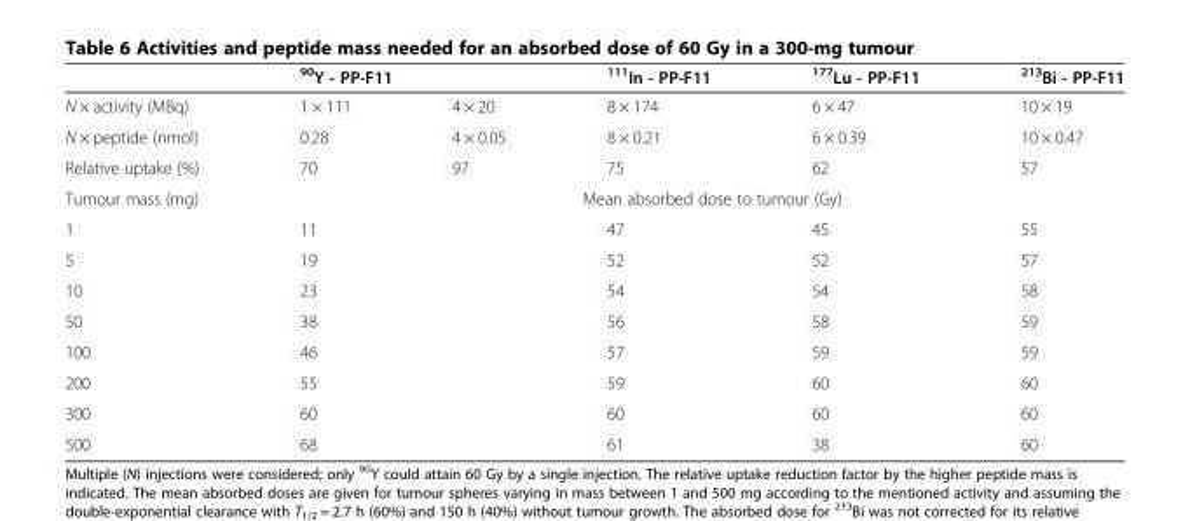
<table><thead><tr><td rowspan="2">N × activity (MBq)</td><td colspan="2"><sup>90</sup>Y - PP-F11</td><td rowspan="2"><sup>111</sup>In - PP-F11 8 × 174</td><td rowspan="2"><sup>177</sup>Lu - PP-F11 6 × 47</td><td rowspan="2"><sup>213</sup>Bi - PP-F11 10 × 19</td></tr><tr><td>1 × 111</td><td>4 × 20</td></tr></thead><tbody><tr><td>N × peptide (nmol)</td><td>0.28</td><td>4 × 0.05</td><td>8 × 0.21</td><td>6 × 0.39</td><td>10 × 0.47</td></tr><tr><td>Relative uptake (%)</td><td>70</td><td>97</td><td>75</td><td>62</td><td>57</td></tr><tr><td>Tumour mass (mg)</td><td colspan="5">Mean absorbed dose to tumour (Gy)</td></tr><tr><td>1</td><td colspan="2">11</td><td>47</td><td>45</td><td>55</td></tr><tr><td>5</td><td colspan="2">19</td><td>52</td><td>52</td><td>57</td></tr><tr><td>10</td><td colspan="2">23</td><td>54</td><td>54</td><td>58</td></tr><tr><td>50</td><td colspan="2">38</td><td>56</td><td>58</td><td>59</td></tr><tr><td>100</td><td colspan="2">46</td><td>57</td><td>59</td><td>59</td></tr><tr><td>200</td><td colspan="2">55</td><td>59</td><td>60</td><td>60</td></tr><tr><td>300</td><td colspan="2">60</td><td>60</td><td>60</td><td>60</td></tr><tr><td>500</td><td colspan="2">68</td><td>61</td><td>38</td><td>60</td></tr></tbody></table>